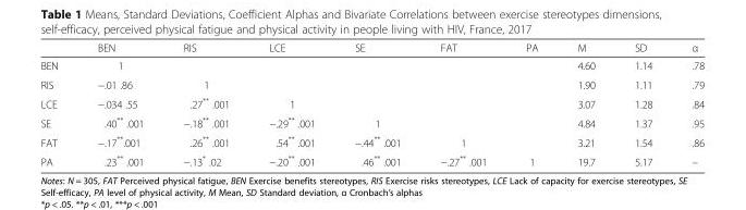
<table><thead><tr><td></td><td>BEN</td><td>RIS</td><td>LCE</td><td>SE</td><td>FAT</td><td>PA</td><td>M</td><td>SD</td><td>α</td></tr></thead><tbody><tr><td>BEN</td><td>1</td><td></td><td></td><td></td><td></td><td></td><td>4.60</td><td>1.14</td><td>.78</td></tr><tr><td>RIS</td><td>−.01 .86</td><td>1</td><td></td><td></td><td></td><td></td><td>1.90</td><td>1.11</td><td>.79</td></tr><tr><td>LCE</td><td>−.034 .55</td><td>.27** .001</td><td>1</td><td></td><td></td><td></td><td>3.07</td><td>1.28</td><td>.84</td></tr><tr><td>SE</td><td>.40** .001</td><td>−.18** .001</td><td>−.29** .001</td><td>1</td><td></td><td></td><td>4.84</td><td>1.37</td><td>.95</td></tr><tr><td>FAT</td><td>−.17**.001</td><td>.26** .001</td><td>.54** .001</td><td>−.44** .001</td><td>1</td><td></td><td>3.21</td><td>1.54</td><td>.86</td></tr><tr><td>PA</td><td>.23** .001</td><td>−.13* .02</td><td>−.20** .001</td><td>.46** .001</td><td>−.27** .001</td><td>1</td><td>19.7</td><td>5.17</td><td>–</td></tr></tbody></table>